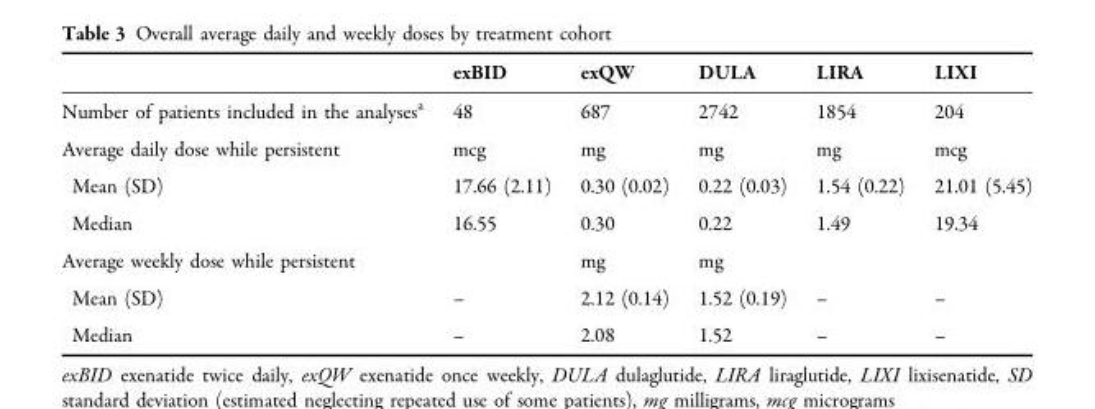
<table><thead><tr><td></td><td>exBID</td><td>exQW</td><td>DULA</td><td>LIRA</td><td>LIXI</td></tr></thead><tbody><tr><td>Number of patients included in the analyses<sup>a</sup></td><td>48</td><td>687</td><td>2742</td><td>1854</td><td>204</td></tr><tr><td>Average daily dose while persistent</td><td>mcg</td><td>mg</td><td>mg</td><td>mg</td><td>mcg</td></tr><tr><td>Mean (SD)</td><td>17.66 (2.11)</td><td>0.30 (0.02)</td><td>0.22 (0.03)</td><td>1.54 (0.22)</td><td>21.01 (5.45)</td></tr><tr><td>Median</td><td>16.55</td><td>0.30</td><td>0.22</td><td>1.49</td><td>19.34</td></tr><tr><td>Average weekly dose while persistent</td><td></td><td>mg</td><td>mg</td><td></td><td></td></tr><tr><td>Mean (SD)</td><td>–</td><td>2.12 (0.14)</td><td>1.52 (0.19)</td><td>–</td><td>–</td></tr><tr><td>Median</td><td>–</td><td>2.08</td><td>1.52</td><td>–</td><td>–</td></tr></tbody></table>